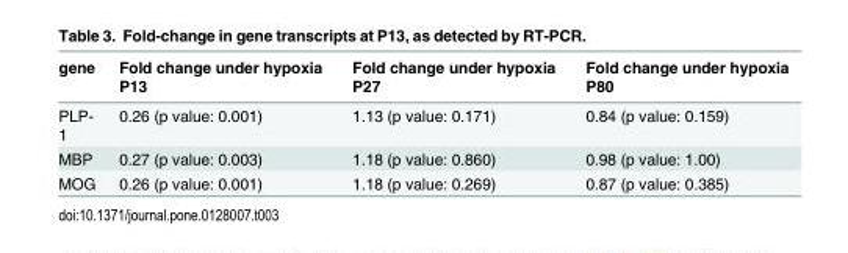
<table><thead><tr><td>gene</td><td>Fold change under hypoxia P13</td><td>Fold change under hypoxia P27</td><td>Fold change under hypoxia P80</td></tr></thead><tbody><tr><td>PLP- 1</td><td>0.26 (p value: 0.001)</td><td>1.13 (p value: 0.171)</td><td>0.84 (p value: 0.159)</td></tr><tr><td>MBP</td><td>0.27 (p value: 0.003)</td><td>1.18 (p value: 0.860)</td><td>0.98 (p value: 1.00)</td></tr><tr><td>MOG</td><td>0.26 (p value: 0.001)</td><td>1.18 (p value: 0.269)</td><td>0.87 (p value: 0.385)</td></tr></tbody></table>